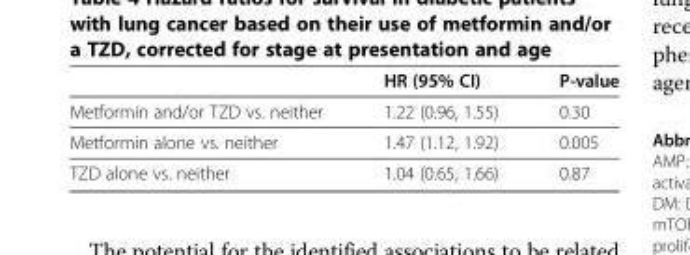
<table><thead><tr><td></td><td>HR (95% CI)</td><td>P-value</td></tr></thead><tbody><tr><td>Metformin and/or TZD vs. neither</td><td>1.22 (0.96, 1.55)</td><td>0.30</td></tr><tr><td>Metformin alone vs. neither</td><td>1.47 (1.12, 1.92)</td><td>0.005</td></tr><tr><td>TZD alone vs. neither</td><td>1.04 (0.65, 1.66)</td><td>0.87</td></tr></tbody></table>